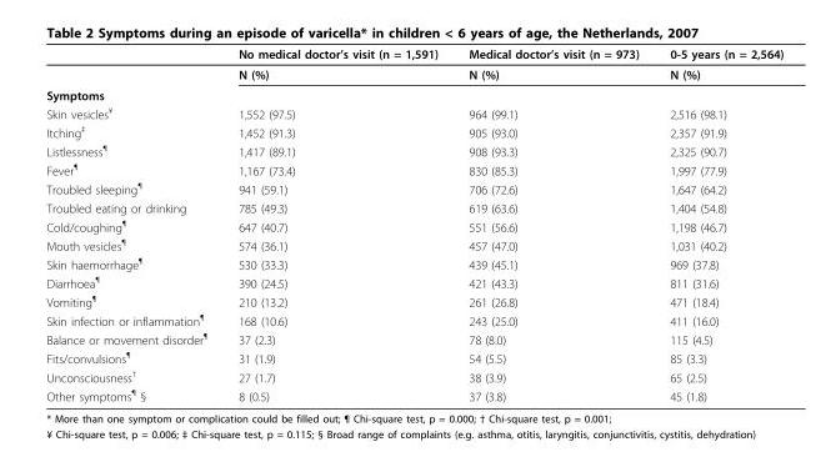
<table><thead><tr><td></td><td>No medical doctor’s visit (n = 1,591)</td><td>Medical doctor’s visit (n = 973)</td><td>0-5 years (n = 2,564)</td></tr></thead><tbody><tr><td></td><td>N (%)</td><td>N (%)</td><td>N (%)</td></tr><tr><td colspan="4">Symptoms</td></tr><tr><td>Skin vesicles<sup>¥</sup></td><td>1,552 (97.5)</td><td>964 (99.1)</td><td>2,516 (98.1)</td></tr><tr><td>Itching<sup>‡</sup></td><td>1,452 (91.3)</td><td>905 (93.0)</td><td>2,357 (91.9)</td></tr><tr><td>Listlessness<sup>¶</sup></td><td>1,417 (89.1)</td><td>908 (93.3)</td><td>2,325 (90.7)</td></tr><tr><td>Fever<sup>¶</sup></td><td>1,167 (73.4)</td><td>830 (85.3)</td><td>1,997 (77.9)</td></tr><tr><td>Troubled sleeping<sup>¶</sup></td><td>941 (59.1)</td><td>706 (72.6)</td><td>1,647 (64.2)</td></tr><tr><td>Troubled eating or drinking</td><td>785 (49.3)</td><td>619 (63.6)</td><td>1,404 (54.8)</td></tr><tr><td>Cold/coughing<sup>¶</sup></td><td>647 (40.7)</td><td>551 (56.6)</td><td>1,198 (46.7)</td></tr><tr><td>Mouth vesicles<sup>¶</sup></td><td>574 (36.1)</td><td>457 (47.0)</td><td>1,031 (40.2)</td></tr><tr><td>Skin haemorrhage<sup>¶</sup></td><td>530 (33.3)</td><td>439 (45.1)</td><td>969 (37.8)</td></tr><tr><td>Diarrhoea<sup>¶</sup></td><td>390 (24.5)</td><td>421 (43.3)</td><td>811 (31.6)</td></tr><tr><td>Vomiting<sup>¶</sup></td><td>210 (13.2)</td><td>261 (26.8)</td><td>471 (18.4)</td></tr><tr><td>Skin infection or inflammation<sup>¶</sup></td><td>168 (10.6)</td><td>243 (25.0)</td><td>411 (16.0)</td></tr><tr><td>Balance or movement disorder<sup>¶</sup></td><td>37 (2.3)</td><td>78 (8.0)</td><td>115 (4.5)</td></tr><tr><td>Fits/convulsions<sup>¶</sup></td><td>31 (1.9)</td><td>54 (5.5)</td><td>85 (3.3)</td></tr><tr><td>Unconsciousness<sup>†</sup></td><td>27 (1.7)</td><td>38 (3.9)</td><td>65 (2.5)</td></tr><tr><td>Other symptoms<sup>¶</sup> §</td><td>8 (0.5)</td><td>37 (3.8)</td><td>45 (1.8)</td></tr></tbody></table>